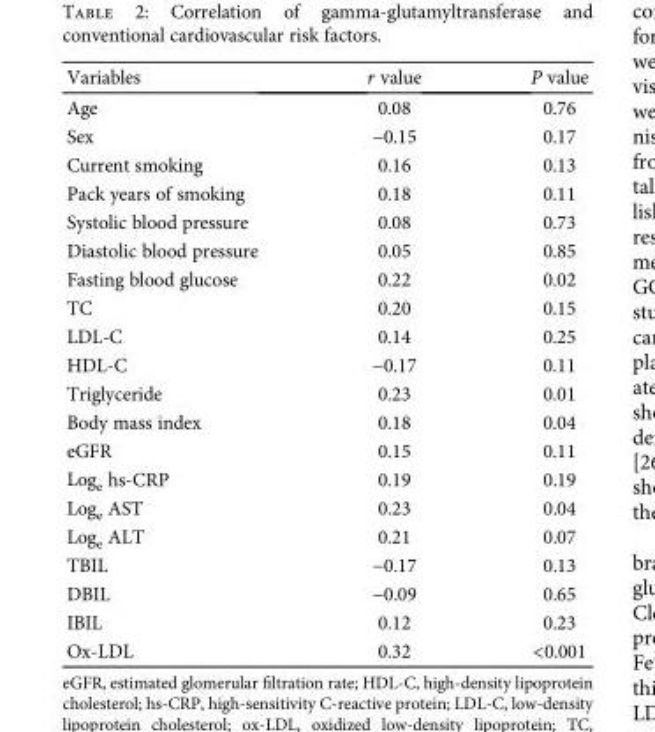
<table><thead><tr><td>Variables</td><td>r value</td><td>P value</td></tr></thead><tbody><tr><td>Age</td><td>0.08</td><td>0.76</td></tr><tr><td>Sex</td><td>−0.15</td><td>0.17</td></tr><tr><td>Current smoking</td><td>0.16</td><td>0.13</td></tr><tr><td>Pack years of smoking</td><td>0.18</td><td>0.11</td></tr><tr><td>Systolic blood pressure</td><td>0.08</td><td>0.73</td></tr><tr><td>Diastolic blood pressure</td><td>0.05</td><td>0.85</td></tr><tr><td>Fasting blood glucose</td><td>0.22</td><td>0.02</td></tr><tr><td>TC</td><td>0.20</td><td>0.15</td></tr><tr><td>LDL-C</td><td>0.14</td><td>0.25</td></tr><tr><td>HDL-C</td><td>−0.17</td><td>0.11</td></tr><tr><td>Triglyceride</td><td>0.23</td><td>0.01</td></tr><tr><td>Body mass index</td><td>0.18</td><td>0.04</td></tr><tr><td>eGFR</td><td>0.15</td><td>0.11</td></tr><tr><td>Log<sub>e</sub> hs-CRP</td><td>0.19</td><td>0.19</td></tr><tr><td>Log<sub>e</sub> AST</td><td>0.23</td><td>0.04</td></tr><tr><td>Log<sub>e</sub> ALT</td><td>0.21</td><td>0.07</td></tr><tr><td>TBIL</td><td>−0.17</td><td>0.13</td></tr><tr><td>DBIL</td><td>−0.09</td><td>0.65</td></tr><tr><td>IBIL</td><td>0.12</td><td>0.23</td></tr><tr><td>Ox-LDL</td><td>0.32</td><td>&lt;0.001</td></tr></tbody></table>